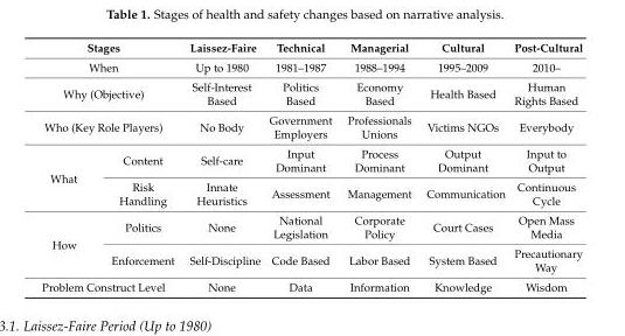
<table><thead><tr><td colspan="2">Stages</td><td>Laissez-Faire</td><td>Technical</td><td>Managerial</td><td>Cultural</td><td>Post-Cultural</td></tr></thead><tbody><tr><td colspan="2">When</td><td>Up to 1980</td><td>1981–1987</td><td>1988–1994</td><td>1995–2009</td><td>2010–</td></tr><tr><td colspan="2">Why (Objective)</td><td>Self-Interest Based</td><td>Politics Based</td><td>Economy Based</td><td>Health Based</td><td>Human Rights Based</td></tr><tr><td colspan="2">Who (Key Role Players)</td><td>No Body</td><td>Government Employers</td><td>Professionals Unions</td><td>Victims NGOs</td><td>Everybody</td></tr><tr><td rowspan="2">What</td><td>Content</td><td>Self-care</td><td>Input Dominant</td><td>Process Dominant</td><td>Output Dominant</td><td>Input to Output</td></tr><tr><td>Risk Handling</td><td>Innate Heuristics</td><td>Assessment</td><td>Management</td><td>Communication</td><td>Continuous Cycle</td></tr><tr><td rowspan="2">How</td><td>Politics</td><td>None</td><td>National Legislation</td><td>Corporate Policy</td><td>Court Cases</td><td>Open Mass Media</td></tr><tr><td>Enforcement</td><td>Self-Discipline</td><td>Code Based</td><td>Labor Based</td><td>System Based</td><td>Precautionary Way</td></tr><tr><td colspan="2">Problem Construct Level</td><td>None</td><td>Data</td><td>Information</td><td>Knowledge</td><td>Wisdom</td></tr></tbody></table>